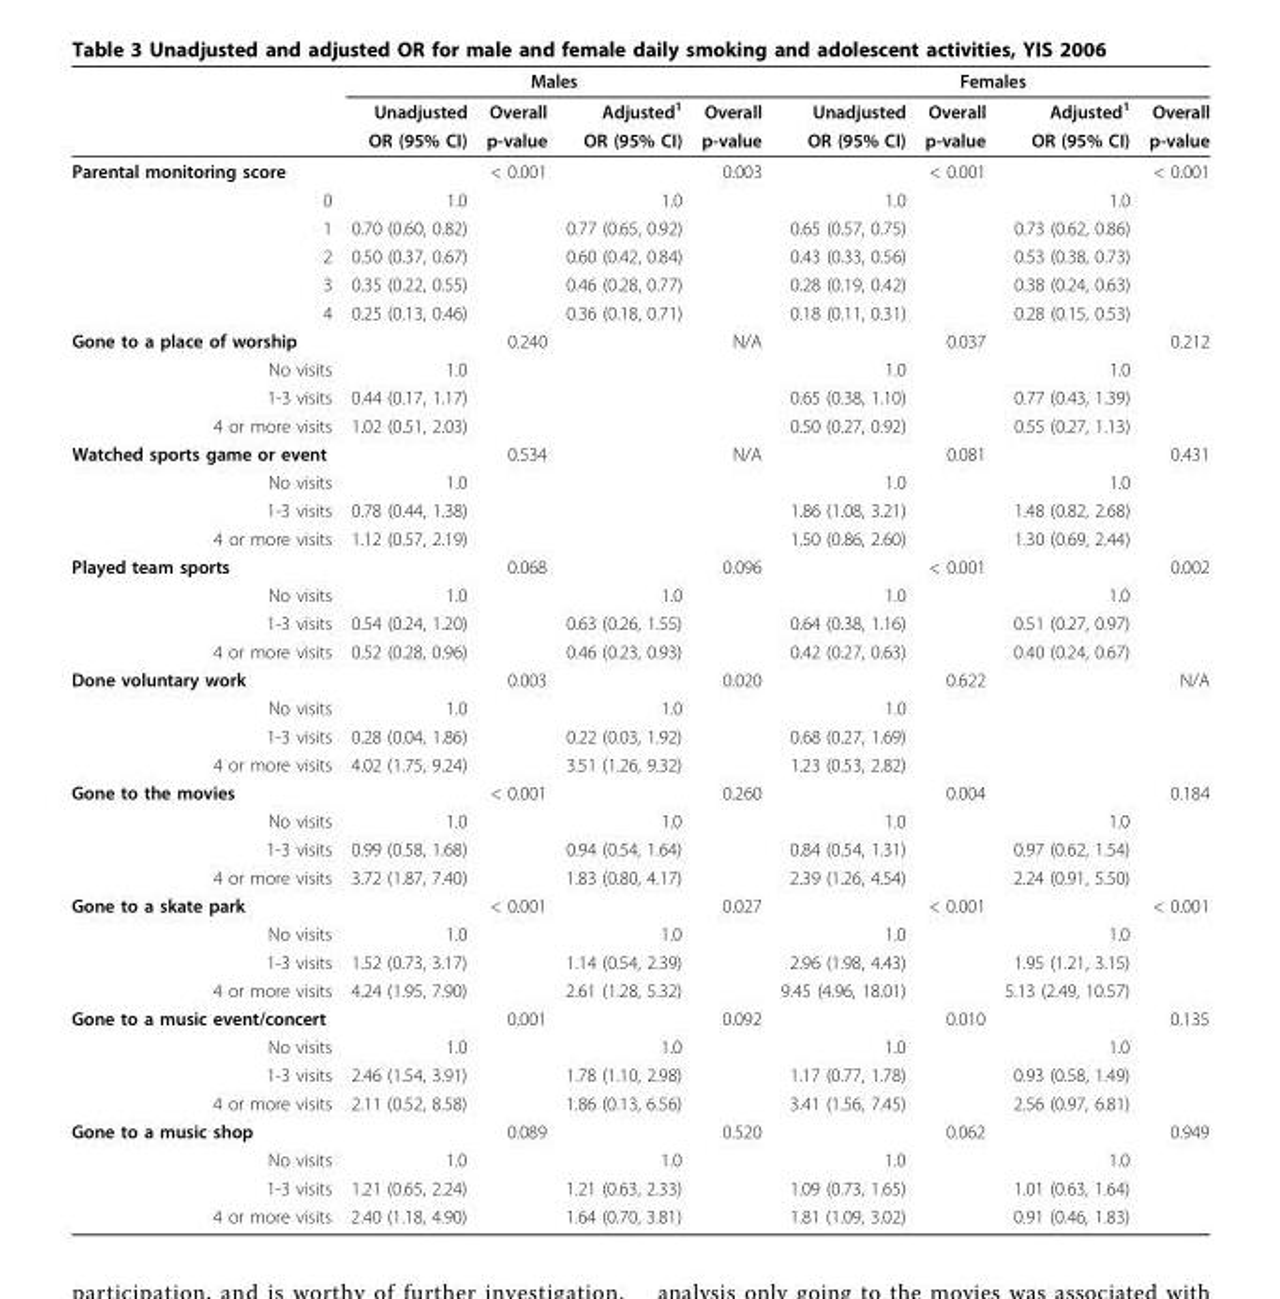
<table><thead><tr><td rowspan="3"></td><td colspan="4">Males</td><td colspan="4">Females</td></tr><tr><td rowspan="2">Unadjusted OR (95% CI)</td><td rowspan="2">Overall p-value</td><td rowspan="2">Adjusted<sup>1</sup> OR (95% CI)</td><td rowspan="2">Overall p-value</td><td rowspan="2">Unadjusted OR (95% CI)</td><td rowspan="2">Overall p-value</td><td rowspan="2">Adjusted<sup>1</sup> OR (95% CI)</td><td rowspan="2">Overall p-value</td></tr><tr></tr></thead><tbody><tr><td>Parental monitoring score</td><td></td><td>&lt; 0.001</td><td></td><td>0.003</td><td></td><td>&lt; 0.001</td><td></td><td>&lt; 0.001</td></tr><tr><td>0</td><td>1.0</td><td></td><td>1.0</td><td></td><td>1.0</td><td></td><td>1.0</td><td></td></tr><tr><td>1</td><td>0.70 (0.60, 0.82)</td><td></td><td>0.77 (0.65, 0.92)</td><td></td><td>0.65 (0.57, 0.75)</td><td></td><td>0.73 (0.62, 0.86)</td><td></td></tr><tr><td>2</td><td>0.50 (0.37, 0.67)</td><td></td><td>0.60 (0.42, 0.84)</td><td></td><td>0.43 (0.33, 0.56)</td><td></td><td>0.53 (0.38, 0.73)</td><td></td></tr><tr><td>3</td><td>0.35 (0.22, 0.55)</td><td></td><td>0.46 (0.28, 0.77)</td><td></td><td>0.28 (0.19, 0.42)</td><td></td><td>0.38 (0.24, 0.63)</td><td></td></tr><tr><td>4</td><td>0.25 (0.13, 0.46)</td><td></td><td>0.36 (0.18, 0.71)</td><td></td><td>0.18 (0.11, 0.31)</td><td></td><td>0.28 (0.15, 0.53)</td><td></td></tr><tr><td>Gone to a place of worship</td><td></td><td>0.240</td><td></td><td>N/A</td><td></td><td>0.037</td><td></td><td>0.212</td></tr><tr><td>No visits</td><td>1.0</td><td></td><td></td><td></td><td>1.0</td><td></td><td>1.0</td><td></td></tr><tr><td>1-3 visits</td><td>0.44 (0.17, 1.17)</td><td></td><td></td><td></td><td>0.65 (0.38, 1.10)</td><td></td><td>0.77 (0.43, 1.39)</td><td></td></tr><tr><td>4 or more visits</td><td>1.02 (0.51, 2.03)</td><td></td><td></td><td></td><td>0.50 (0.27, 0.92)</td><td></td><td>0.55 (0.27, 1.13)</td><td></td></tr><tr><td>Watched sports game or event</td><td></td><td>0.534</td><td></td><td>N/A</td><td></td><td>0.081</td><td></td><td>0.431</td></tr><tr><td>No visits</td><td>1.0</td><td></td><td></td><td></td><td>1.0</td><td></td><td>1.0</td><td></td></tr><tr><td>1-3 visits</td><td>0.78 (0.44, 1.38)</td><td></td><td></td><td></td><td>1.86 (1.08, 3.21)</td><td></td><td>1.48 (0.82, 2.68)</td><td></td></tr><tr><td>4 or more visits</td><td>1.12 (0.57, 2.19)</td><td></td><td></td><td></td><td>1.50 (0.86, 2.60)</td><td></td><td>1.30 (0.69, 2.44)</td><td></td></tr><tr><td>Played team sports</td><td></td><td>0.068</td><td></td><td>0.096</td><td></td><td>&lt; 0.001</td><td></td><td>0.002</td></tr><tr><td>No visits</td><td>1.0</td><td></td><td>1.0</td><td></td><td>1.0</td><td></td><td>1.0</td><td></td></tr><tr><td>1-3 visits</td><td>0.54 (0.24, 1.20)</td><td></td><td>0.63 (0.26, 1.55)</td><td></td><td>0.64 (0.38, 1.16)</td><td></td><td>0.51 (0.27, 0.97)</td><td></td></tr><tr><td>4 or more visits</td><td>0.52 (0.28, 0.96)</td><td></td><td>0.46 (0.23, 0.93)</td><td></td><td>0.42 (0.27, 0.63)</td><td></td><td>0.40 (0.24, 0.67)</td><td></td></tr><tr><td>Done voluntary work</td><td></td><td>0.003</td><td></td><td>0.020</td><td></td><td>0.622</td><td></td><td>N/A</td></tr><tr><td>No visits</td><td>1.0</td><td></td><td>1.0</td><td></td><td>1.0</td><td></td><td></td><td></td></tr><tr><td>1-3 visits</td><td>0.28 (0.04, 1.86)</td><td></td><td>0.22 (0.03, 1.92)</td><td></td><td>0.68 (0.27, 1.69)</td><td></td><td></td><td></td></tr><tr><td>4 or more visits</td><td>4.02 (1.75, 9.24)</td><td></td><td>3.51 (1.26, 9.32)</td><td></td><td>1.23 (0.53, 2.82)</td><td></td><td></td><td></td></tr><tr><td>Gone to the movies</td><td></td><td>&lt; 0.001</td><td></td><td>0.260</td><td></td><td>0.004</td><td></td><td>0.184</td></tr><tr><td>No visits</td><td>1.0</td><td></td><td>1.0</td><td></td><td>1.0</td><td></td><td>1.0</td><td></td></tr><tr><td>1-3 visits</td><td>0.99 (0.58, 1.68)</td><td></td><td>0.94 (0.54, 1.64)</td><td></td><td>0.84 (0.54, 1.31)</td><td></td><td>0.97 (0.62, 1.54)</td><td></td></tr><tr><td>4 or more visits</td><td>3.72 (1.87, 7.40)</td><td></td><td>1.83 (0.80, 4.17)</td><td></td><td>2.39 (1.26, 4.54)</td><td></td><td>2.24 (0.91, 5.50)</td><td></td></tr><tr><td>Gone to a skate park</td><td></td><td>&lt; 0.001</td><td></td><td>0.027</td><td></td><td>&lt; 0.001</td><td></td><td>&lt; 0.001</td></tr><tr><td>No visits</td><td>1.0</td><td></td><td>1.0</td><td></td><td>1.0</td><td></td><td>1.0</td><td></td></tr><tr><td>1-3 visits</td><td>1.52 (0.73, 3.17)</td><td></td><td>1.14 (0.54, 2.39)</td><td></td><td>2.96 (1.98, 4.43)</td><td></td><td>1.95 (1.21, 3.15)</td><td></td></tr><tr><td>4 or more visits</td><td>4.24 (1.95, 7.90)</td><td></td><td>2.61 (1.28, 5.32)</td><td></td><td>9.45 (4.96, 18.01)</td><td></td><td>5.13 (2.49, 10.57)</td><td></td></tr><tr><td>Gone to a music event/concert</td><td></td><td>0.001</td><td></td><td>0.092</td><td></td><td>0.010</td><td></td><td>0.135</td></tr><tr><td>No visits</td><td>1.0</td><td></td><td>1.0</td><td></td><td>1.0</td><td></td><td>1.0</td><td></td></tr><tr><td>1-3 visits</td><td>2.46 (1.54, 3.91)</td><td></td><td>1.78 (1.10, 2.98)</td><td></td><td>1.17 (0.77, 1.78)</td><td></td><td>0.93 (0.58, 1.49)</td><td></td></tr><tr><td>4 or more visits</td><td>2.11 (0.52, 8.58)</td><td></td><td>1.86 (0.13, 6.56)</td><td></td><td>3.41 (1.56, 7.45)</td><td></td><td>2.56 (0.97, 6.81)</td><td></td></tr><tr><td>Gone to a music shop</td><td></td><td>0.089</td><td></td><td>0.520</td><td></td><td>0.062</td><td></td><td>0.949</td></tr><tr><td>No visits</td><td>1.0</td><td></td><td>1.0</td><td></td><td>1.0</td><td></td><td>1.0</td><td></td></tr><tr><td>1-3 visits</td><td>1.21 (0.65, 2.24)</td><td></td><td>1.21 (0.63, 2.33)</td><td></td><td>1.09 (0.73, 1.65)</td><td></td><td>1.01 (0.63, 1.64)</td><td></td></tr><tr><td>4 or more visits</td><td>2.40 (1.18, 4.90)</td><td></td><td>1.64 (0.70, 3.81)</td><td></td><td>1.81 (1.09, 3.02)</td><td></td><td>0.91 (0.46, 1.83)</td><td></td></tr></tbody></table>